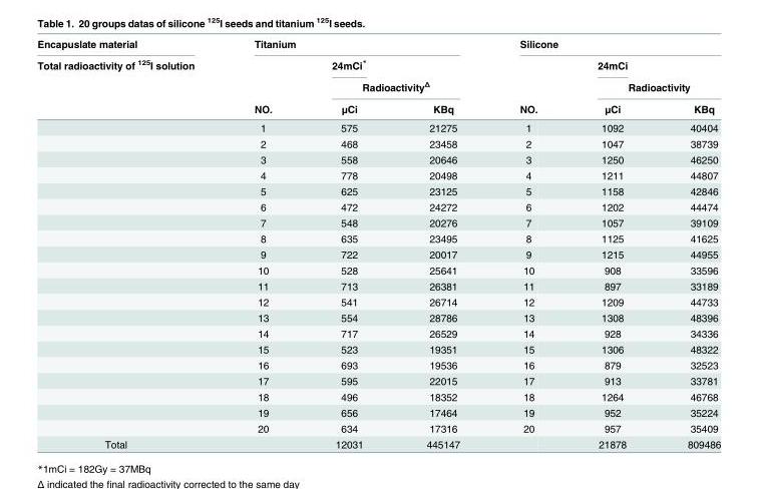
<table><thead><tr><td rowspan="4">Encapuslate material Total radioactivity of <sup>125</sup>I solution</td><td colspan="3">Titanium</td><td colspan="3">Silicone</td></tr><tr><td rowspan="3">NO.</td><td>24mCi*</td><td></td><td rowspan="3">NO.</td><td>24mCi</td><td></td></tr><tr><td colspan="2">Radioactivity<sup>Δ</sup></td><td colspan="2">Radioactivity</td></tr><tr><td>μCi</td><td>KBq</td><td>μCi</td><td>KBq</td></tr></thead><tbody><tr><td></td><td>1</td><td>575</td><td>21275</td><td>1</td><td>1092</td><td>40404</td></tr><tr><td></td><td>2</td><td>468</td><td>23458</td><td>2</td><td>1047</td><td>38739</td></tr><tr><td></td><td>3</td><td>558</td><td>20646</td><td>3</td><td>1250</td><td>46250</td></tr><tr><td></td><td>4</td><td>778</td><td>20498</td><td>4</td><td>1211</td><td>44807</td></tr><tr><td></td><td>5</td><td>625</td><td>23125</td><td>5</td><td>1158</td><td>42846</td></tr><tr><td></td><td>6</td><td>472</td><td>24272</td><td>6</td><td>1202</td><td>44474</td></tr><tr><td></td><td>7</td><td>548</td><td>20276</td><td>7</td><td>1057</td><td>39109</td></tr><tr><td></td><td>8</td><td>635</td><td>23495</td><td>8</td><td>1125</td><td>41625</td></tr><tr><td></td><td>9</td><td>722</td><td>20017</td><td>9</td><td>1215</td><td>44955</td></tr><tr><td></td><td>10</td><td>528</td><td>25641</td><td>10</td><td>908</td><td>33596</td></tr><tr><td></td><td>11</td><td>713</td><td>26381</td><td>11</td><td>897</td><td>33189</td></tr><tr><td></td><td>12</td><td>541</td><td>26714</td><td>12</td><td>1209</td><td>44733</td></tr><tr><td></td><td>13</td><td>554</td><td>28786</td><td>13</td><td>1308</td><td>48396</td></tr><tr><td></td><td>14</td><td>717</td><td>26529</td><td>14</td><td>928</td><td>34336</td></tr><tr><td></td><td>15</td><td>523</td><td>19351</td><td>15</td><td>1306</td><td>48322</td></tr><tr><td></td><td>16</td><td>693</td><td>19536</td><td>16</td><td>879</td><td>32523</td></tr><tr><td></td><td>17</td><td>595</td><td>22015</td><td>17</td><td>913</td><td>33781</td></tr><tr><td></td><td>18</td><td>496</td><td>18352</td><td>18</td><td>1264</td><td>46768</td></tr><tr><td></td><td>19</td><td>656</td><td>17464</td><td>19</td><td>952</td><td>35224</td></tr><tr><td></td><td>20</td><td>634</td><td>17316</td><td>20</td><td>957</td><td>35409</td></tr><tr><td>Total</td><td></td><td>12031</td><td>445147</td><td></td><td>21878</td><td>809486</td></tr></tbody></table>